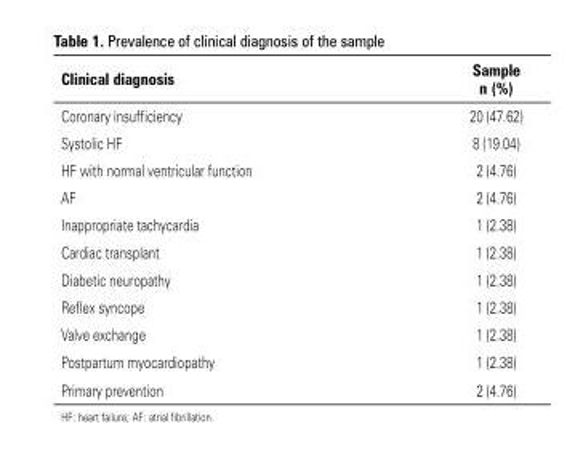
<table><thead><tr><td>Clinical diagnosis</td><td>Sample n (%)</td></tr></thead><tbody><tr><td>Coronary insufficiency</td><td>20 (47.62)</td></tr><tr><td>Systolic HF</td><td>8 (19.04)</td></tr><tr><td>HF with normal ventricular function</td><td>2 (4.76)</td></tr><tr><td>AF</td><td>2 (4.76)</td></tr><tr><td>Inappropriate tachycardia</td><td>1 (2.38)</td></tr><tr><td>Cardiac transplant</td><td>1 (2.38)</td></tr><tr><td>Diabetic neuropathy</td><td>1 (2.38)</td></tr><tr><td>Reflex syncope</td><td>1 (2.38)</td></tr><tr><td>Valve exchange</td><td>1 (2.38)</td></tr><tr><td>Postpartum myocardiopathy</td><td>1 (2.38)</td></tr><tr><td>Primary prevention</td><td>2 (4.76)</td></tr></tbody></table>